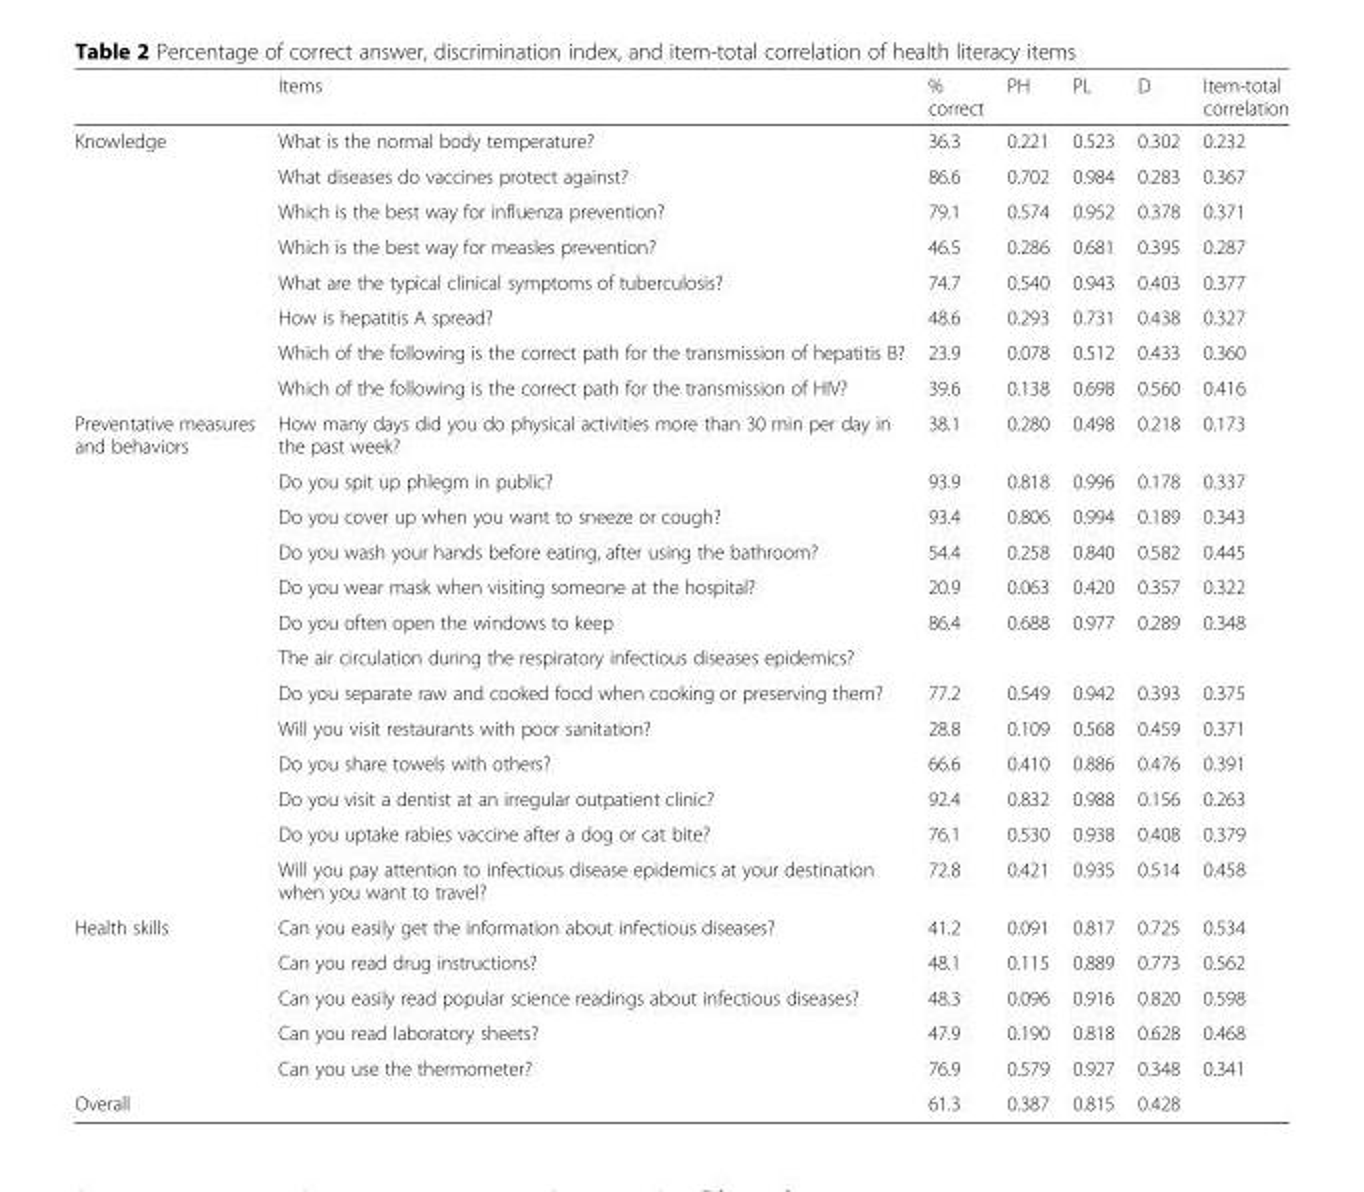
<table><thead><tr><td></td><td>Items</td><td>% correct</td><td>PH</td><td>PL</td><td>D</td><td>Item-total correlation</td></tr></thead><tbody><tr><td rowspan="8">Knowledge</td><td>What is the normal body temperature?</td><td>36.3</td><td>0.221</td><td>0.523</td><td>0.302</td><td>0.232</td></tr><tr><td>What diseases do vaccines protect against?</td><td>86.6</td><td>0.702</td><td>0.984</td><td>0.283</td><td>0.367</td></tr><tr><td>Which is the best way for influenza prevention?</td><td>79.1</td><td>0.574</td><td>0.952</td><td>0.378</td><td>0.371</td></tr><tr><td>Which is the best way for measles prevention?</td><td>46.5</td><td>0.286</td><td>0.681</td><td>0.395</td><td>0.287</td></tr><tr><td>What are the typical clinical symptoms of tuberculosis?</td><td>74.7</td><td>0.540</td><td>0.943</td><td>0.403</td><td>0.377</td></tr><tr><td>How is hepatitis A spread?</td><td>48.6</td><td>0.293</td><td>0.731</td><td>0.438</td><td>0.327</td></tr><tr><td>Which of the following is the correct path for the transmission of hepatitis B?</td><td>23.9</td><td>0.078</td><td>0.512</td><td>0.433</td><td>0.360</td></tr><tr><td>Which of the following is the correct path for the transmission of HIV?</td><td>39.6</td><td>0.138</td><td>0.698</td><td>0.560</td><td>0.416</td></tr><tr><td rowspan="13">Preventative measures and behaviors</td><td>How many days did you do physical activities more than 30 min per day in the past week?</td><td>38.1</td><td>0.280</td><td>0.498</td><td>0.218</td><td>0.173</td></tr><tr><td>Do you spit up phlegm in public?</td><td>93.9</td><td>0.818</td><td>0.996</td><td>0.178</td><td>0.337</td></tr><tr><td>Do you cover up when you want to sneeze or cough?</td><td>93.4</td><td>0.806</td><td>0.994</td><td>0.189</td><td>0.343</td></tr><tr><td>Do you wash your hands before eating, after using the bathroom?</td><td>54.4</td><td>0.258</td><td>0.840</td><td>0.582</td><td>0.445</td></tr><tr><td>Do you wear mask when visiting someone at the hospital?</td><td>20.9</td><td>0.063</td><td>0.420</td><td>0.357</td><td>0.322</td></tr><tr><td>Do you often open the windows to keep</td><td rowspan="2">86.4</td><td rowspan="2">0.688</td><td rowspan="2">0.977</td><td rowspan="2">0.289</td><td rowspan="2">0.348</td></tr><tr><td>The air circulation during the respiratory infectious diseases epidemics?</td></tr><tr><td>Do you separate raw and cooked food when cooking or preserving them?</td><td>77.2</td><td>0.549</td><td>0.942</td><td>0.393</td><td>0.375</td></tr><tr><td>Will you visit restaurants with poor sanitation?</td><td>28.8</td><td>0.109</td><td>0.568</td><td>0.459</td><td>0.371</td></tr><tr><td>Do you share towels with others?</td><td>66.6</td><td>0.410</td><td>0.886</td><td>0.476</td><td>0.391</td></tr><tr><td>Do you visit a dentist at an irregular outpatient clinic?</td><td>92.4</td><td>0.832</td><td>0.988</td><td>0.156</td><td>0.263</td></tr><tr><td>Do you uptake rabies vaccine after a dog or cat bite?</td><td>76.1</td><td>0.530</td><td>0.938</td><td>0.408</td><td>0.379</td></tr><tr><td>Will you pay attention to infectious disease epidemics at your destination when you want to travel?</td><td>72.8</td><td>0.421</td><td>0.935</td><td>0.514</td><td>0.458</td></tr><tr><td rowspan="5">Health skills</td><td>Can you easily get the information about infectious diseases?</td><td>41.2</td><td>0.091</td><td>0.817</td><td>0.725</td><td>0.534</td></tr><tr><td>Can you read drug instructions?</td><td>48.1</td><td>0.115</td><td>0.889</td><td>0.773</td><td>0.562</td></tr><tr><td>Can you easily read popular science readings about infectious diseases?</td><td>48.3</td><td>0.096</td><td>0.916</td><td>0.820</td><td>0.598</td></tr><tr><td>Can you read laboratory sheets?</td><td>47.9</td><td>0.190</td><td>0.818</td><td>0.628</td><td>0.468</td></tr><tr><td>Can you use the thermometer?</td><td>76.9</td><td>0.579</td><td>0.927</td><td>0.348</td><td>0.341</td></tr><tr><td>Overall</td><td></td><td>61.3</td><td>0.387</td><td>0.815</td><td>0.428</td><td></td></tr></tbody></table>